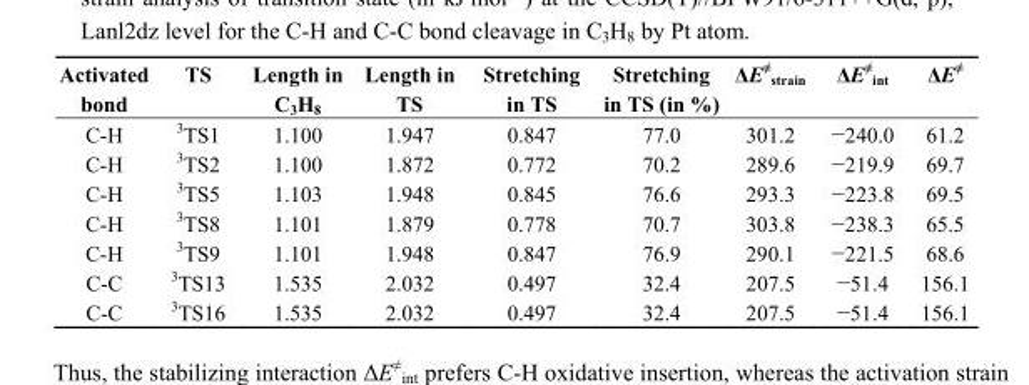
<table><thead><tr><td>Activated bond</td><td>TS</td><td>Length in C<sub>3</sub>H<sub>8</sub></td><td>Length in TS</td><td>Stretching in TS</td><td>Stretching in TS (in %)</td><td>ΔE<sup>≠</sup> <sub>strain</sub></td><td>ΔE<sup>≠</sup> <sub>int</sub></td><td>ΔE<sup>≠</sup></td></tr></thead><tbody><tr><td>C-H</td><td><sup>3</sup>TS1</td><td>1.100</td><td>1.947</td><td>0.847</td><td>77.0</td><td>301.2</td><td>−240.0</td><td>61.2</td></tr><tr><td>C-H</td><td><sup>3</sup>TS2</td><td>1.100</td><td>1.872</td><td>0.772</td><td>70.2</td><td>289.6</td><td>−219.9</td><td>69.7</td></tr><tr><td>C-H</td><td><sup>3</sup>TS5</td><td>1.103</td><td>1.948</td><td>0.845</td><td>76.6</td><td>293.3</td><td>−223.8</td><td>69.5</td></tr><tr><td>C-H</td><td><sup>3</sup>TS8</td><td>1.101</td><td>1.879</td><td>0.778</td><td>70.7</td><td>303.8</td><td>−238.3</td><td>65.5</td></tr><tr><td>C-H</td><td><sup>3</sup>TS9</td><td>1.101</td><td>1.948</td><td>0.847</td><td>76.9</td><td>290.1</td><td>−221.5</td><td>68.6</td></tr><tr><td>C-C</td><td><sup>3</sup>TS13</td><td>1.535</td><td>2.032</td><td>0.497</td><td>32.4</td><td>207.5</td><td>−51.4</td><td>156.1</td></tr><tr><td>C-C</td><td><sup>3</sup>TS16</td><td>1.535</td><td>2.032</td><td>0.497</td><td>32.4</td><td>207.5</td><td>−51.4</td><td>156.1</td></tr></tbody></table>